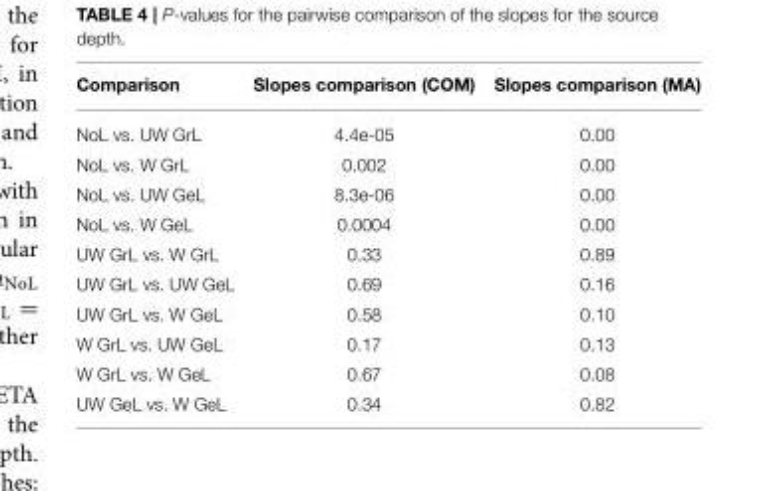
<table><thead><tr><td>Comparison</td><td>Slopes comparison (COM)</td><td>Slopes comparison (MA)</td></tr></thead><tbody><tr><td>NoL vs. UW GrL</td><td>4.4e-05</td><td>0.00</td></tr><tr><td>NoL vs. W GrL</td><td>0.002</td><td>0.00</td></tr><tr><td>NoL vs. UW GeL</td><td>8.3e-06</td><td>0.00</td></tr><tr><td>NoL vs. W GeL</td><td>0.0004</td><td>0.00</td></tr><tr><td>UW GrL vs. W GrL</td><td>0.33</td><td>0.89</td></tr><tr><td>UW GrL vs. UW GeL</td><td>0.69</td><td>0.16</td></tr><tr><td>UW GrL vs. W GeL</td><td>0.58</td><td>0.10</td></tr><tr><td>W GrL vs. UW GeL</td><td>0.17</td><td>0.13</td></tr><tr><td>W GrL vs. W GeL</td><td>0.67</td><td>0.08</td></tr><tr><td>UW GeL vs. W GeL</td><td>0.34</td><td>0.82</td></tr></tbody></table>